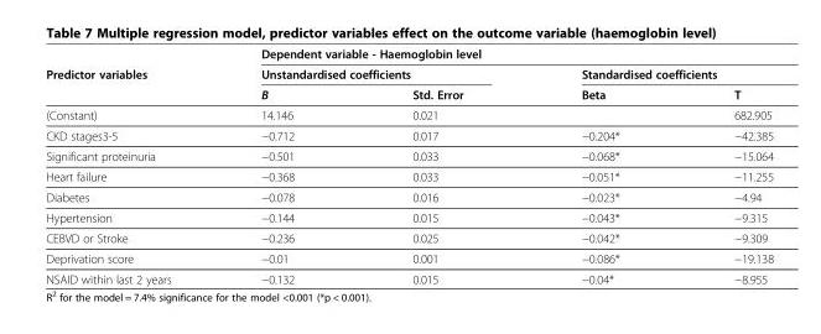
<table><thead><tr><td rowspan="3">Predictor variables</td><td colspan="4">Dependent variable - Haemoglobin level</td></tr><tr><td colspan="2">Unstandardised coefficients</td><td colspan="2">Standardised coefficients</td></tr><tr><td>B</td><td>Std. Error</td><td>Beta</td><td>T</td></tr></thead><tbody><tr><td>(Constant)</td><td>14.146</td><td>0.021</td><td></td><td>682.905</td></tr><tr><td>CKD stages3-5</td><td>−0.712</td><td>0.017</td><td>−0.204*</td><td>−42.385</td></tr><tr><td>Significant proteinuria</td><td>−0.501</td><td>0.033</td><td>−0.068*</td><td>−15.064</td></tr><tr><td>Heart failure</td><td>−0.368</td><td>0.033</td><td>−0.051*</td><td>−11.255</td></tr><tr><td>Diabetes</td><td>−0.078</td><td>0.016</td><td>−0.023*</td><td>−4.94</td></tr><tr><td>Hypertension</td><td>−0.144</td><td>0.015</td><td>−0.043*</td><td>−9.315</td></tr><tr><td>CEBVD or Stroke</td><td>−0.236</td><td>0.025</td><td>−0.042*</td><td>−9.309</td></tr><tr><td>Deprivation score</td><td>−0.01</td><td>0.001</td><td>−0.086*</td><td>−19.138</td></tr><tr><td>NSAID within last 2 years</td><td>−0.132</td><td>0.015</td><td>−0.04*</td><td>−8.955</td></tr></tbody></table>